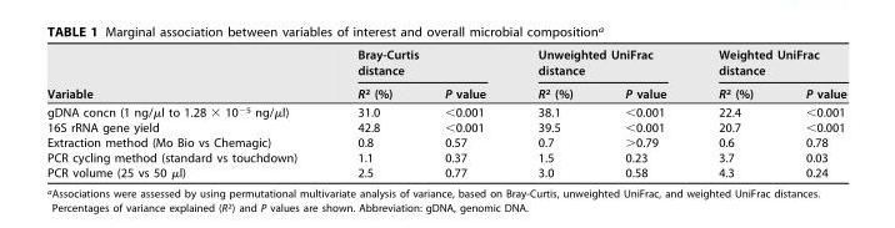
<table><thead><tr><td rowspan="2">Variable</td><td colspan="2">Bray-Curtis distance</td><td colspan="2">Unweighted UniFrac distance</td><td colspan="2">Weighted UniFrac distance</td></tr><tr><td>R<sup>2</sup> (%)</td><td>P value</td><td>R<sup>2</sup> (%)</td><td>P value</td><td>R<sup>2</sup> (%)</td><td>P value</td></tr></thead><tbody><tr><td>gDNA concn (1 ng/μl to 1.28 × 10<sup>−5</sup> ng/μl)</td><td>31.0</td><td>&lt;0.001</td><td>38.1</td><td>&lt;0.001</td><td>22.4</td><td>&lt;0.001</td></tr><tr><td>16S rRNA gene yield</td><td>42.8</td><td>&lt;0.001</td><td>39.5</td><td>&lt;0.001</td><td>20.7</td><td>&lt;0.001</td></tr><tr><td>Extraction method (Mo Bio vs Chemagic)</td><td>0.8</td><td>0.57</td><td>0.7</td><td>&gt;0.79</td><td>0.6</td><td>0.78</td></tr><tr><td>PCR cycling method (standard vs touchdown)</td><td>1.1</td><td>0.37</td><td>1.5</td><td>0.23</td><td>3.7</td><td>0.03</td></tr><tr><td>PCR volume (25 vs 50 μl)</td><td>2.5</td><td>0.77</td><td>3.0</td><td>0.58</td><td>4.3</td><td>0.24</td></tr></tbody></table>